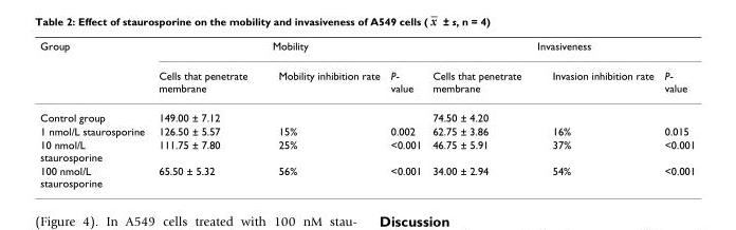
<table><thead><tr><td rowspan="2">Group</td><td colspan="3">Mobility</td><td colspan="3">Invasiveness</td></tr><tr><td>Cells that penetrate membrane</td><td>Mobility inhibition rate</td><td>P- value</td><td>Cells that penetrate membrane</td><td>Invasion inhibition rate</td><td>P- value</td></tr></thead><tbody><tr><td>Control group</td><td>149.00 ± 7.12</td><td></td><td></td><td>74.50 ± 4.20</td><td></td><td></td></tr><tr><td>1 nmol/L staurosporine</td><td>126.50 ± 5.57</td><td>15%</td><td>0.002</td><td>62.75 ± 3.86</td><td>16%</td><td>0.015</td></tr><tr><td>10 nmol/L staurosporine</td><td>111.75 ± 7.80</td><td>25%</td><td>&lt;0.001</td><td>46.75 ± 5.91</td><td>37%</td><td>&lt;0.001</td></tr><tr><td>100 nmol/L staurosporine</td><td>65.50 ± 5.32</td><td>56%</td><td>&lt;0.001</td><td>34.00 ± 2.94</td><td>54%</td><td>&lt;0.001</td></tr></tbody></table>